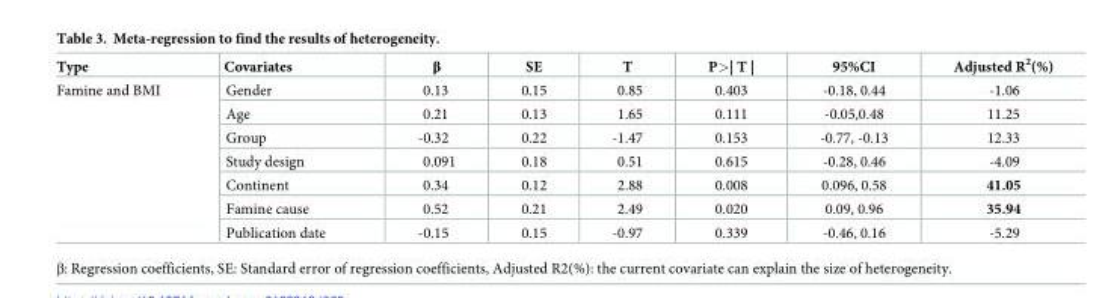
<table><thead><tr><td>Type</td><td>Covariates</td><td>β</td><td>SE</td><td>T</td><td>P&gt;| T |</td><td>95%CI</td><td>Adjusted R<sup>2</sup>(%)</td></tr></thead><tbody><tr><td rowspan="7">Famine and BMI</td><td>Gender</td><td>0.13</td><td>0.15</td><td>0.85</td><td>0.403</td><td>-0.18, 0.44</td><td>-1.06</td></tr><tr><td>Age</td><td>0.21</td><td>0.13</td><td>1.65</td><td>0.111</td><td>-0.05,0.48</td><td>11.25</td></tr><tr><td>Group</td><td>-0.32</td><td>0.22</td><td>-1.47</td><td>0.153</td><td>-0.77, -0.13</td><td>12.33</td></tr><tr><td>Study design</td><td>0.091</td><td>0.18</td><td>0.51</td><td>0.615</td><td>-0.28, 0.46</td><td>-4.09</td></tr><tr><td>Continent</td><td>0.34</td><td>0.12</td><td>2.88</td><td>0.008</td><td>0.096, 0.58</td><td>41.05</td></tr><tr><td>Famine cause</td><td>0.52</td><td>0.21</td><td>2.49</td><td>0.020</td><td>0.09, 0.96</td><td>35.94</td></tr><tr><td>Publication date</td><td>-0.15</td><td>0.15</td><td>-0.97</td><td>0.339</td><td>-0.46, 0.16</td><td>-5.29</td></tr></tbody></table>